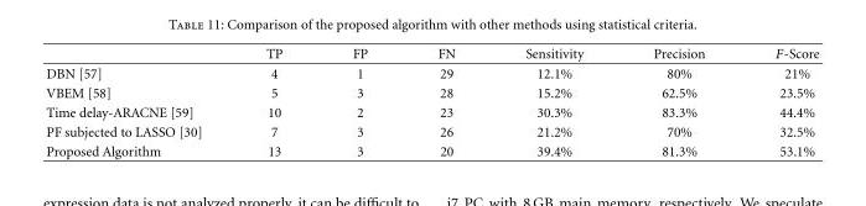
<table><thead><tr><td></td><td>TP</td><td>FP</td><td>FN</td><td>Sensitivity</td><td>Precision</td><td>F-Score</td></tr></thead><tbody><tr><td>DBN [57]</td><td>4</td><td>1</td><td>29</td><td>12.1%</td><td>80%</td><td>21%</td></tr><tr><td>VBEM [58]</td><td>5</td><td>3</td><td>28</td><td>15.2%</td><td>62.5%</td><td>23.5%</td></tr><tr><td>Time delay-ARACNE [59]</td><td>10</td><td>2</td><td>23</td><td>30.3%</td><td>83.3%</td><td>44.4%</td></tr><tr><td>PF subjected to LASSO [30]</td><td>7</td><td>3</td><td>26</td><td>21.2%</td><td>70%</td><td>32.5%</td></tr><tr><td>Proposed Algorithm</td><td>13</td><td>3</td><td>20</td><td>39.4%</td><td>81.3%</td><td>53.1%</td></tr></tbody></table>